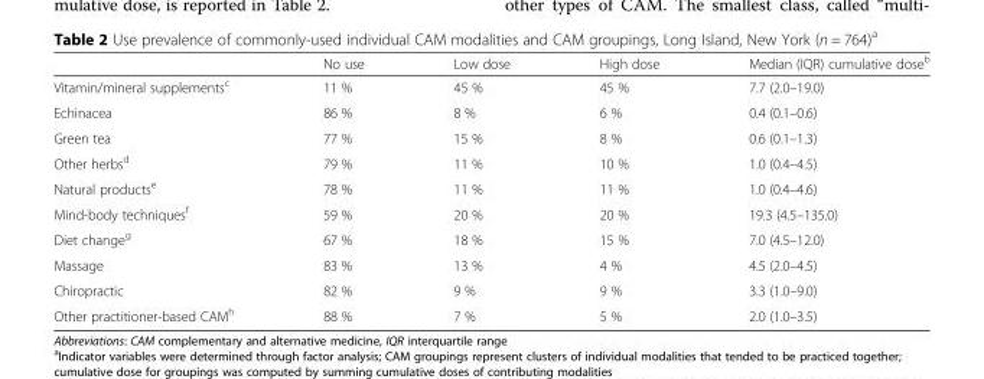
<table><thead><tr><td></td><td>No use</td><td>Low dose</td><td>High dose</td><td>Median (IQR) cumulative dose<sup>b</sup></td></tr></thead><tbody><tr><td>Vitamin/mineral supplements<sup>c</sup></td><td>11 %</td><td>45 %</td><td>45 %</td><td>7.7 (2.0–19.0)</td></tr><tr><td>Echinacea</td><td>86 %</td><td>8 %</td><td>6 %</td><td>0.4 (0.1–0.6)</td></tr><tr><td>Green tea</td><td>77 %</td><td>15 %</td><td>8 %</td><td>0.6 (0.1–1.3)</td></tr><tr><td>Other herbs<sup>d</sup></td><td>79 %</td><td>11 %</td><td>10 %</td><td>1.0 (0.4–4.5)</td></tr><tr><td>Natural products<sup>e</sup></td><td>78 %</td><td>11 %</td><td>11 %</td><td>1.0 (0.4–4.6)</td></tr><tr><td>Mind-body techniques<sup>f</sup></td><td>59 %</td><td>20 %</td><td>20 %</td><td>19.3 (4.5–135.0)</td></tr><tr><td>Diet change<sup>g</sup></td><td>67 %</td><td>18 %</td><td>15 %</td><td>7.0 (4.5–12.0)</td></tr><tr><td>Massage</td><td>83 %</td><td>13 %</td><td>4 %</td><td>4.5 (2.0–4.5)</td></tr><tr><td>Chiropractic</td><td>82 %</td><td>9 %</td><td>9 %</td><td>3.3 (1.0–9.0)</td></tr><tr><td>Other practitioner-based CAM<sup>h</sup></td><td>88 %</td><td>7 %</td><td>5 %</td><td>2.0 (1.0–3.5)</td></tr></tbody></table>